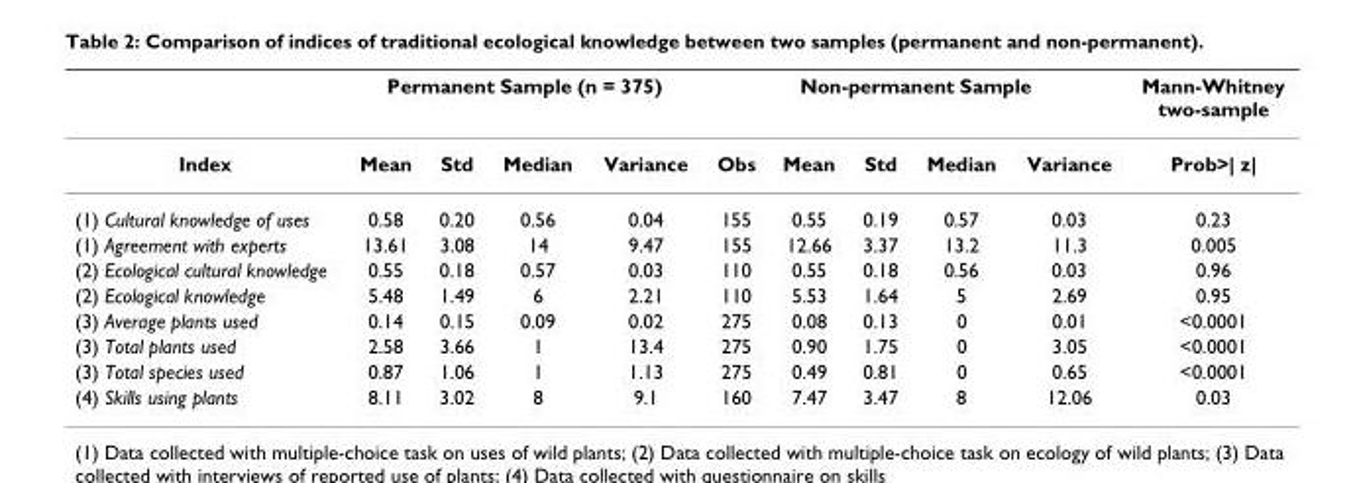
<table><thead><tr><td rowspan="2">Index</td><td colspan="4">Permanent Sample (n = 375)</td><td colspan="5">Non-permanent Sample</td><td rowspan="2">Mann-Whitney two-sample Prob&gt;| z|</td></tr><tr><td>Mean</td><td>Std</td><td>Median</td><td>Variance</td><td>Obs</td><td>Mean</td><td>Std</td><td>Median</td><td>Variance</td></tr></thead><tbody><tr><td>(1) Cultural knowledge of uses</td><td>0.58</td><td>0.20</td><td>0.56</td><td>0.04</td><td>155</td><td>0.55</td><td>0.19</td><td>0.57</td><td>0.03</td><td>0.23</td></tr><tr><td>(1) Agreement with experts</td><td>13.61</td><td>3.08</td><td>14</td><td>9.47</td><td>155</td><td>12.66</td><td>3.37</td><td>13.2</td><td>11.3</td><td>0.005</td></tr><tr><td>(2) Ecological cultural knowledge</td><td>0.55</td><td>0.18</td><td>0.57</td><td>0.03</td><td>110</td><td>0.55</td><td>0.18</td><td>0.56</td><td>0.03</td><td>0.96</td></tr><tr><td>(2) Ecological knowledge</td><td>5.48</td><td>1.49</td><td>6</td><td>2.21</td><td>110</td><td>5.53</td><td>1.64</td><td>5</td><td>2.69</td><td>0.95</td></tr><tr><td>(3) Average plants used</td><td>0.14</td><td>0.15</td><td>0.09</td><td>0.02</td><td>275</td><td>0.08</td><td>0.13</td><td>0</td><td>0.01</td><td>&lt;0.0001</td></tr><tr><td>(3) Total plants used</td><td>2.58</td><td>3.66</td><td>1</td><td>13.4</td><td>275</td><td>0.90</td><td>1.75</td><td>0</td><td>3.05</td><td>&lt;0.0001</td></tr><tr><td>(3) Total species used</td><td>0.87</td><td>1.06</td><td>1</td><td>1.13</td><td>275</td><td>0.49</td><td>0.81</td><td>0</td><td>0.65</td><td>&lt;0.0001</td></tr><tr><td>(4) Skills using plants</td><td>8.11</td><td>3.02</td><td>8</td><td>9.1</td><td>160</td><td>7.47</td><td>3.47</td><td>8</td><td>12.06</td><td>0.03</td></tr></tbody></table>